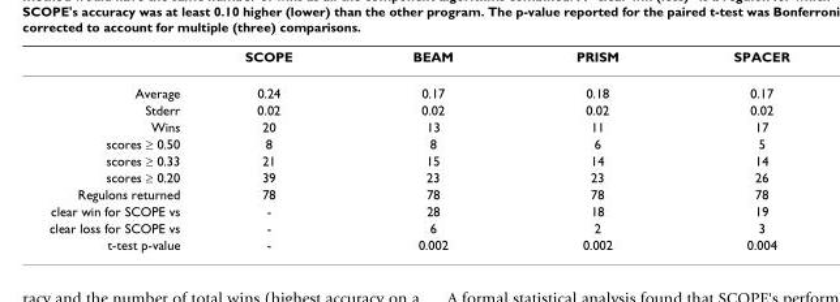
<table><thead><tr><td></td><td>SCOPE</td><td>BEAM</td><td>PRISM</td><td>SPACER</td></tr></thead><tbody><tr><td>Average</td><td>0.24</td><td>0.17</td><td>0.18</td><td>0.17</td></tr><tr><td>Stderr</td><td>0.02</td><td>0.02</td><td>0.02</td><td>0.02</td></tr><tr><td>Wins</td><td>20</td><td>13</td><td>11</td><td>17</td></tr><tr><td>scores ≥ 0.50</td><td>8</td><td>8</td><td>6</td><td>5</td></tr><tr><td>scores ≥ 0.33</td><td>21</td><td>15</td><td>14</td><td>14</td></tr><tr><td>scores ≥ 0.20</td><td>39</td><td>23</td><td>23</td><td>26</td></tr><tr><td>Regulons returned</td><td>78</td><td>78</td><td>78</td><td>78</td></tr><tr><td>clear win for SCOPE vs</td><td>-</td><td>28</td><td>18</td><td>19</td></tr><tr><td>clear loss for SCOPE vs</td><td>-</td><td>6</td><td>2</td><td>3</td></tr><tr><td>t-test p-value</td><td>-</td><td>0.002</td><td>0.002</td><td>0.004</td></tr></tbody></table>